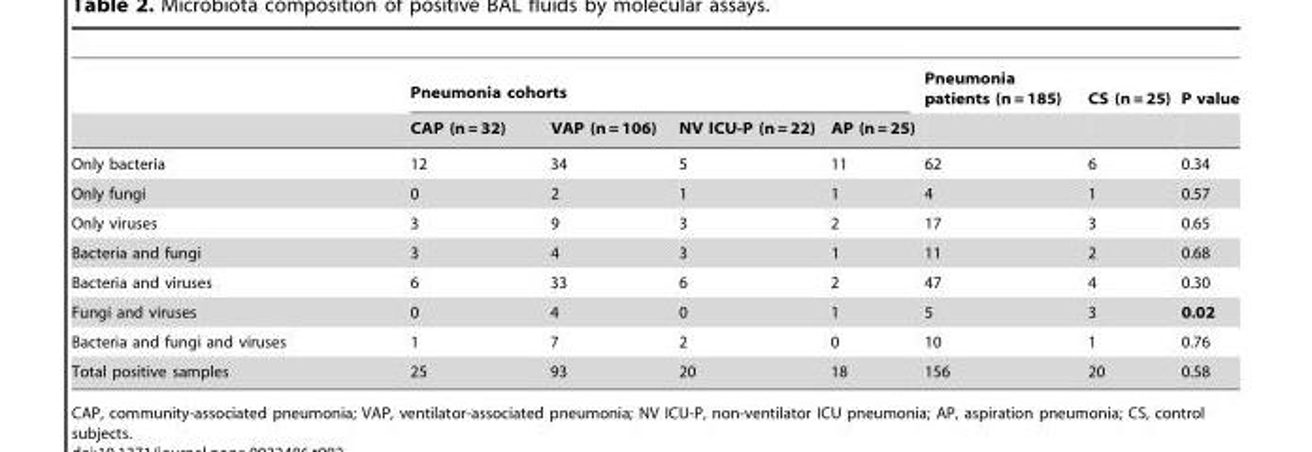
<table><thead><tr><td rowspan="2"></td><td colspan="4">Pneumonia cohorts</td><td rowspan="2">Pneumonia patients (n = 185)</td><td rowspan="2">CS (n = 25)</td><td rowspan="2">P value</td></tr><tr><td>CAP (n = 32)</td><td>VAP (n = 106)</td><td>NV ICU-P (n = 22)</td><td>AP (n = 25)</td></tr></thead><tbody><tr><td>Only bacteria</td><td>12</td><td>34</td><td>5</td><td>11</td><td>62</td><td>6</td><td>0.34</td></tr><tr><td>Only fungi</td><td>0</td><td>2</td><td>1</td><td>1</td><td>4</td><td>1</td><td>0.57</td></tr><tr><td>Only viruses</td><td>3</td><td>9</td><td>3</td><td>2</td><td>17</td><td>3</td><td>0.65</td></tr><tr><td>Bacteria and fungi</td><td>3</td><td>4</td><td>3</td><td>1</td><td>11</td><td>2</td><td>0.68</td></tr><tr><td>Bacteria and viruses</td><td>6</td><td>33</td><td>6</td><td>2</td><td>47</td><td>4</td><td>0.30</td></tr><tr><td>Fungi and viruses</td><td>0</td><td>4</td><td>0</td><td>1</td><td>5</td><td>3</td><td>0.02</td></tr><tr><td>Bacteria and fungi and viruses</td><td>1</td><td>7</td><td>2</td><td>0</td><td>10</td><td>1</td><td>0.76</td></tr><tr><td>Total positive samples</td><td>25</td><td>93</td><td>20</td><td>18</td><td>156</td><td>20</td><td>0.58</td></tr></tbody></table>